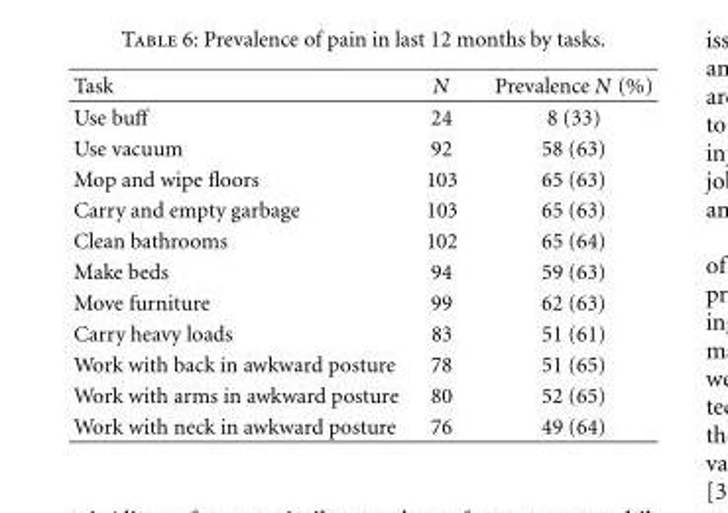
<table><thead><tr><td>Task</td><td>N</td><td>Prevalence N (%)</td></tr></thead><tbody><tr><td>Use buff</td><td>24</td><td>8 (33)</td></tr><tr><td>Use vacuum</td><td>92</td><td>58 (63)</td></tr><tr><td>Mop and wipe floors</td><td>103</td><td>65 (63)</td></tr><tr><td>Carry and empty garbage</td><td>103</td><td>65 (63)</td></tr><tr><td>Clean bathrooms</td><td>102</td><td>65 (64)</td></tr><tr><td>Make beds</td><td>94</td><td>59 (63)</td></tr><tr><td>Move furniture</td><td>99</td><td>62 (63)</td></tr><tr><td>Carry heavy loads</td><td>83</td><td>51 (61)</td></tr><tr><td>Work with back in awkward posture</td><td>78</td><td>51 (65)</td></tr><tr><td>Work with arms in awkward posture</td><td>80</td><td>52 (65)</td></tr><tr><td>Work with neck in awkward posture</td><td>76</td><td>49 (64)</td></tr></tbody></table>